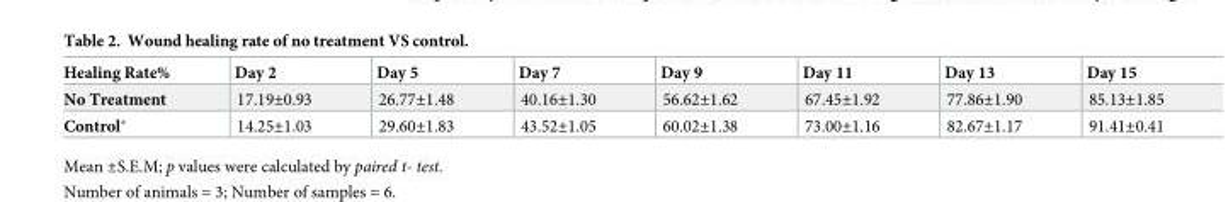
<table><thead><tr><td>Healing Rate%</td><td>Day 2</td><td>Day 5</td><td>Day 7</td><td>Day 9</td><td>Day 11</td><td>Day 13</td><td>Day 15</td></tr></thead><tbody><tr><td>No Treatment</td><td>17.19±0.93</td><td>26.77±1.48</td><td>40.16±1.30</td><td>56.62±1.62</td><td>67.45±1.92</td><td>77.86±1.90</td><td>85.13±1.85</td></tr><tr><td>Control*</td><td>14.25±1.03</td><td>29.60±1.83</td><td>43.52±1.05</td><td>60.02±1.38</td><td>73.00±1.16</td><td>82.67±1.17</td><td>91.41±0.41</td></tr></tbody></table>